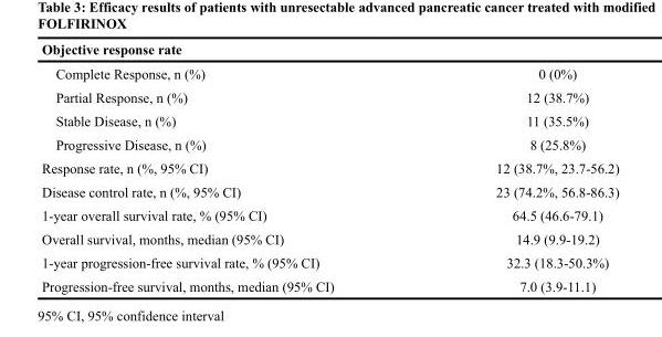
<table><thead><tr><td>Objective response rate</td><td></td></tr></thead><tbody><tr><td>Complete Response, n (%)</td><td>0 (0%)</td></tr><tr><td>Partial Response, n (%)</td><td>12 (38.7%)</td></tr><tr><td>Stable Disease, n (%)</td><td>11 (35.5%)</td></tr><tr><td>Progressive Disease, n (%)</td><td>8 (25.8%)</td></tr><tr><td>Response rate, n (%, 95% CI)</td><td>12 (38.7%, 23.7-56.2)</td></tr><tr><td>Disease control rate, n (%, 95% CI)</td><td>23 (74.2%, 56.8-86.3)</td></tr><tr><td>1-year overall survival rate, % (95% CI)</td><td>64.5 (46.6-79.1)</td></tr><tr><td>Overall survival, months, median (95% CI)</td><td>14.9 (9.9-19.2)</td></tr><tr><td>1-year progression-free survival rate, % (95% CI)</td><td>32.3 (18.3-50.3%)</td></tr><tr><td>Progression-free survival, months, median (95% CI)</td><td>7.0 (3.9-11.1)</td></tr></tbody></table>